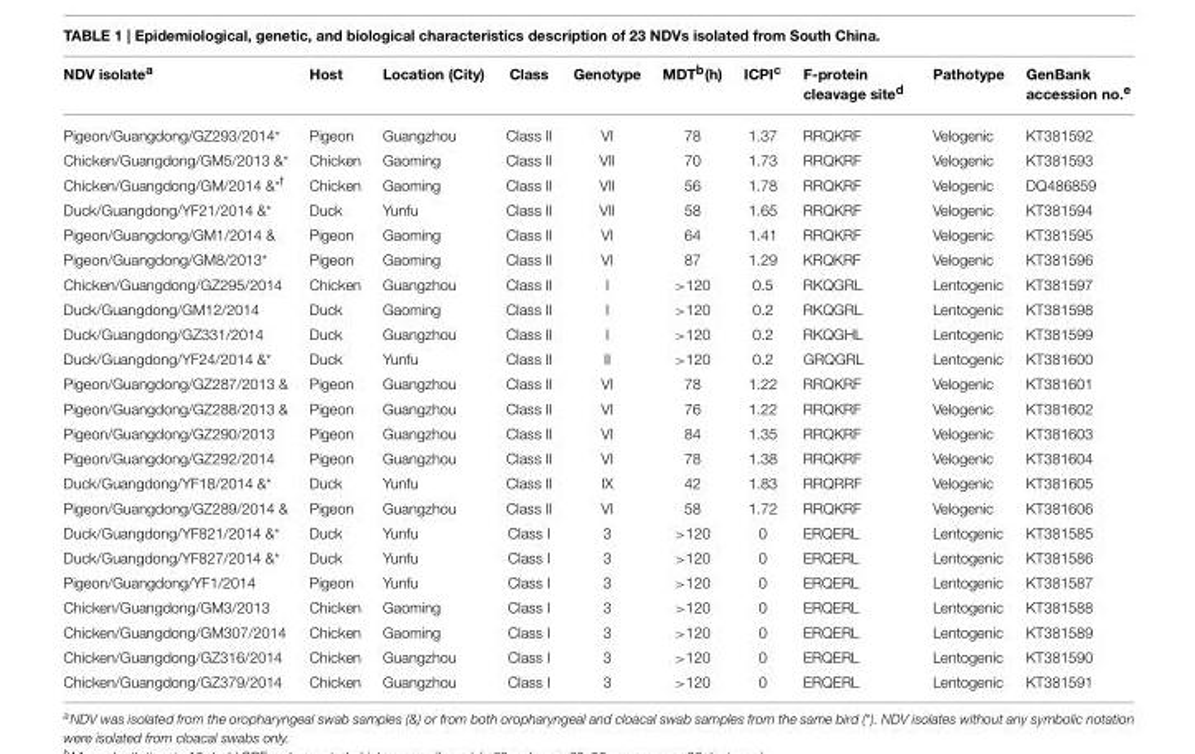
<table><thead><tr><td>NDV isolate<sup>a</sup></td><td>Host</td><td>Location (City)</td><td>Class</td><td>Genotype</td><td>MDT<sup>b</sup>(h)</td><td>ICPI<sup>c</sup></td><td>F-protein cleavage site<sup>d</sup></td><td>Pathotype</td><td>GenBank accession no.<sup>e</sup></td></tr></thead><tbody><tr><td>Pigeon/Guangdong/GZ293/2014*</td><td>Pigeon</td><td>Guangzhou</td><td>Class II</td><td>VI</td><td>78</td><td>1.37</td><td>RRQKRF</td><td>Velogenic</td><td>KT381592</td></tr><tr><td>Chicken/Guangdong/GM5/2013 &amp;*</td><td>Chicken</td><td>Gaoming</td><td>Class II</td><td>VII</td><td>70</td><td>1.73</td><td>RRQKRF</td><td>Velogenic</td><td>KT381593</td></tr><tr><td>Chicken/Guangdong/GM/2014 &amp;<sup>*f</sup></td><td>Chicken</td><td>Gaoming</td><td>Class II</td><td>VII</td><td>56</td><td>1.78</td><td>RRQKRF</td><td>Velogenic</td><td>DQ486859</td></tr><tr><td>Duck/Guangdong/YF21/2014 &amp;*</td><td>Duck</td><td>Yunfu</td><td>Class II</td><td>VII</td><td>58</td><td>1.65</td><td>RRQKRF</td><td>Velogenic</td><td>KT381594</td></tr><tr><td>Pigeon/Guangdong/GM1/2014 &amp;</td><td>Pigeon</td><td>Gaoming</td><td>Class II</td><td>VI</td><td>64</td><td>1.41</td><td>RRQKRF</td><td>Velogenic</td><td>KT381595</td></tr><tr><td>Pigeon/Guangdong/GM8/2013*</td><td>Pigeon</td><td>Gaoming</td><td>Class II</td><td>VI</td><td>87</td><td>1.29</td><td>KRQKRF</td><td>Velogenic</td><td>KT381596</td></tr><tr><td>Chicken/Guangdong/GZ295/2014</td><td>Chicken</td><td>Guangzhou</td><td>Class II</td><td>I</td><td>&gt;120</td><td>0.5</td><td>RKQGRL</td><td>Lentogenic</td><td>KT381597</td></tr><tr><td>Duck/Guangdong/GM12/2014</td><td>Duck</td><td>Gaoming</td><td>Class II</td><td>I</td><td>&gt;120</td><td>0.2</td><td>RKQGRL</td><td>Lentogenic</td><td>KT381598</td></tr><tr><td>Duck/Guangdong/GZ331/2014</td><td>Duck</td><td>Guangzhou</td><td>Class II</td><td>I</td><td>&gt;120</td><td>0.2</td><td>RKQGHL</td><td>Lentogenic</td><td>KT381599</td></tr><tr><td>Duck/Guangdong/YF24/2014 &amp;*</td><td>Duck</td><td>Yunfu</td><td>Class II</td><td>II</td><td>&gt;120</td><td>0.2</td><td>GRQGRL</td><td>Lentogenic</td><td>KT381600</td></tr><tr><td>Pigeon/Guangdong/GZ287/2013 &amp;</td><td>Pigeon</td><td>Guangzhou</td><td>Class II</td><td>VI</td><td>78</td><td>1.22</td><td>RRQKRF</td><td>Velogenic</td><td>KT381601</td></tr><tr><td>Pigeon/Guangdong/GZ288/2013 &amp;</td><td>Pigeon</td><td>Guangzhou</td><td>Class II</td><td>VI</td><td>76</td><td>1.22</td><td>RRQKRF</td><td>Velogenic</td><td>KT381602</td></tr><tr><td>Pigeon/Guangdong/GZ290/2013</td><td>Pigeon</td><td>Guangzhou</td><td>Class II</td><td>VI</td><td>84</td><td>1.35</td><td>RRQKRF</td><td>Velogenic</td><td>KT381603</td></tr><tr><td>Pigeon/Guangdong/GZ292/2014</td><td>Pigeon</td><td>Guangzhou</td><td>Class II</td><td>VI</td><td>78</td><td>1.38</td><td>RRQKRF</td><td>Velogenic</td><td>KT381604</td></tr><tr><td>Duck/Guangdong/YF18/2014 &amp;*</td><td>Duck</td><td>Yunfu</td><td>Class II</td><td>IX</td><td>42</td><td>1.83</td><td>RRQRRF</td><td>Velogenic</td><td>KT381605</td></tr><tr><td>Pigeon/Guangdong/GZ289/2014 &amp;</td><td>Pigeon</td><td>Guangzhou</td><td>Class II</td><td>VI</td><td>58</td><td>1.72</td><td>RRQKRF</td><td>Velogenic</td><td>KT381606</td></tr><tr><td>Duck/Guangdong/YF821/2014 &amp;*</td><td>Duck</td><td>Yunfu</td><td>Class I</td><td>3</td><td>&gt;120</td><td>0</td><td>ERQERL</td><td>Lentogenic</td><td>KT381585</td></tr><tr><td>Duck/Guangdong/YF827/2014 &amp;*</td><td>Duck</td><td>Yunfu</td><td>Class I</td><td>3</td><td>&gt;120</td><td>0</td><td>ERQERL</td><td>Lentogenic</td><td>KT381586</td></tr><tr><td>Pigeon/Guangdong/YF1/2014</td><td>Pigeon</td><td>Yunfu</td><td>Class I</td><td>3</td><td>&gt;120</td><td>0</td><td>ERQERL</td><td>Lentogenic</td><td>KT381587</td></tr><tr><td>Chicken/Guangdong/GM3/2013</td><td>Chicken</td><td>Gaoming</td><td>Class I</td><td>3</td><td>&gt;120</td><td>0</td><td>ERQERL</td><td>Lentogenic</td><td>KT381588</td></tr><tr><td>Chicken/Guangdong/GM307/2014</td><td>Chicken</td><td>Gaoming</td><td>Class I</td><td>3</td><td>&gt;120</td><td>0</td><td>ERQERL</td><td>Lentogenic</td><td>KT381589</td></tr><tr><td>Chicken/Guangdong/GZ316/2014</td><td>Chicken</td><td>Guangzhou</td><td>Class I</td><td>3</td><td>&gt;120</td><td>0</td><td>ERQERL</td><td>Lentogenic</td><td>KT381590</td></tr><tr><td>Chicken/Guangdong/GZ379/2014</td><td>Chicken</td><td>Guangzhou</td><td>Class I</td><td>3</td><td>&gt;120</td><td>0</td><td>ERQERL</td><td>Lentogenic</td><td>KT381591</td></tr></tbody></table>